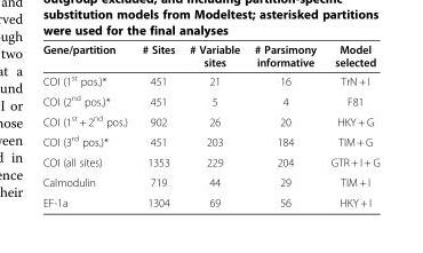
<table><thead><tr><td>Gene/partition</td><td># Sites</td><td># Variable sites</td><td># Parsimony informative</td><td>Model selected</td></tr></thead><tbody><tr><td>COI (1<sup>st</sup> pos.)*</td><td>451</td><td>21</td><td>16</td><td>TrN + I</td></tr><tr><td>COI (2<sup>nd</sup> pos.)*</td><td>451</td><td>5</td><td>4</td><td>F81</td></tr><tr><td>COI (1<sup>st</sup> + 2<sup>nd</sup> pos.)</td><td>902</td><td>26</td><td>20</td><td>HKY + G</td></tr><tr><td>COI (3<sup>rd</sup> pos.)*</td><td>451</td><td>203</td><td>184</td><td>TIM + G</td></tr><tr><td>COI (all sites)</td><td>1353</td><td>229</td><td>204</td><td>GTR + I + G</td></tr><tr><td>Calmodulin</td><td>719</td><td>44</td><td>29</td><td>TIM + I</td></tr><tr><td>EF-1a</td><td>1304</td><td>69</td><td>56</td><td>HKY + I</td></tr></tbody></table>